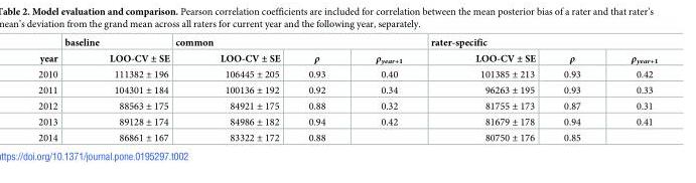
<table><thead><tr><td rowspan="2">year</td><td rowspan="2">baseline LOO-CV ± SE</td><td colspan="3">common</td><td colspan="3">rater-specific</td></tr><tr><td>LOO-CV ± SE</td><td>ρ</td><td>ρ<sub>year+1</sub></td><td>LOO-CV ± SE</td><td>ρ</td><td>ρ<sub>year+1</sub></td></tr></thead><tbody><tr><td>2010</td><td>111382 ± 196</td><td>106445 ± 205</td><td>0.93</td><td>0.40</td><td>101385 ± 213</td><td>0.93</td><td>0.42</td></tr><tr><td>2011</td><td>104301 ± 184</td><td>100136 ± 192</td><td>0.92</td><td>0.34</td><td>96263 ± 195</td><td>0.93</td><td>0.33</td></tr><tr><td>2012</td><td>88563 ± 175</td><td>84921 ± 175</td><td>0.88</td><td>0.32</td><td>81755 ± 173</td><td>0.87</td><td>0.31</td></tr><tr><td>2013</td><td>89128 ± 174</td><td>84986 ± 182</td><td>0.94</td><td>0.42</td><td>81679 ± 178</td><td>0.94</td><td>0.41</td></tr><tr><td>2014</td><td>86861 ± 167</td><td>83322 ± 172</td><td>0.88</td><td></td><td>80750 ± 176</td><td>0.85</td><td></td></tr></tbody></table>